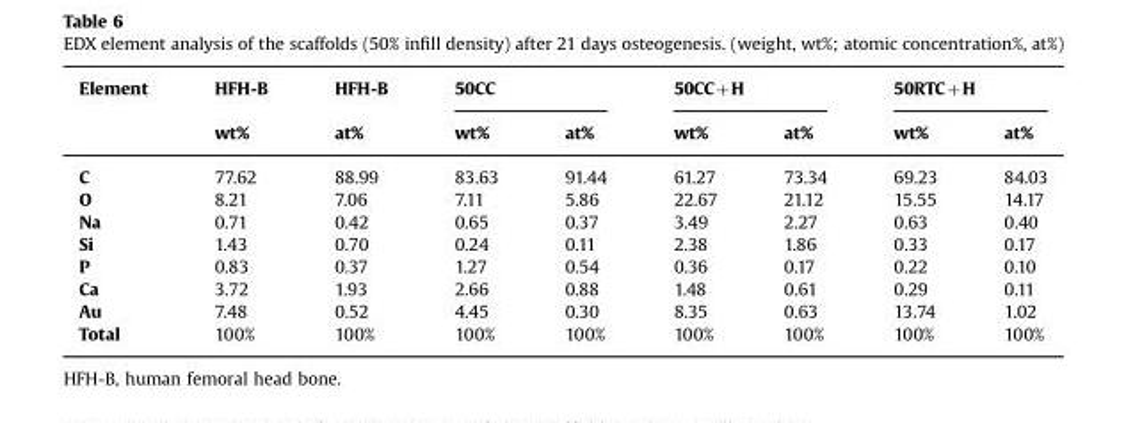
<table><thead><tr><td rowspan="2">Element</td><td rowspan="2">HFH-B wt%</td><td rowspan="2">HFH-B at%</td><td colspan="2">50CC</td><td colspan="2">50CC+H</td><td colspan="2">50RTC+H</td></tr><tr><td>wt%</td><td>at%</td><td>wt%</td><td>at%</td><td>wt%</td><td>at%</td></tr></thead><tbody><tr><td>C</td><td>77.62</td><td>88.99</td><td>83.63</td><td>91.44</td><td>61.27</td><td>73.34</td><td>69.23</td><td>84.03</td></tr><tr><td>O</td><td>8.21</td><td>7.06</td><td>7.11</td><td>5.86</td><td>22.67</td><td>21.12</td><td>15.55</td><td>14.17</td></tr><tr><td>Na</td><td>0.71</td><td>0.42</td><td>0.65</td><td>0.37</td><td>3.49</td><td>2.27</td><td>0.63</td><td>0.40</td></tr><tr><td>Si</td><td>1.43</td><td>0.70</td><td>0.24</td><td>0.11</td><td>2.38</td><td>1.86</td><td>0.33</td><td>0.17</td></tr><tr><td>P</td><td>0.83</td><td>0.37</td><td>1.27</td><td>0.54</td><td>0.36</td><td>0.17</td><td>0.22</td><td>0.10</td></tr><tr><td>Ca</td><td>3.72</td><td>1.93</td><td>2.66</td><td>0.88</td><td>1.48</td><td>0.61</td><td>0.29</td><td>0.11</td></tr><tr><td>Au</td><td>7.48</td><td>0.52</td><td>4.45</td><td>0.30</td><td>8.35</td><td>0.63</td><td>13.74</td><td>1.02</td></tr><tr><td>Total</td><td>100%</td><td>100%</td><td>100%</td><td>100%</td><td>100%</td><td>100%</td><td>100%</td><td>100%</td></tr></tbody></table>